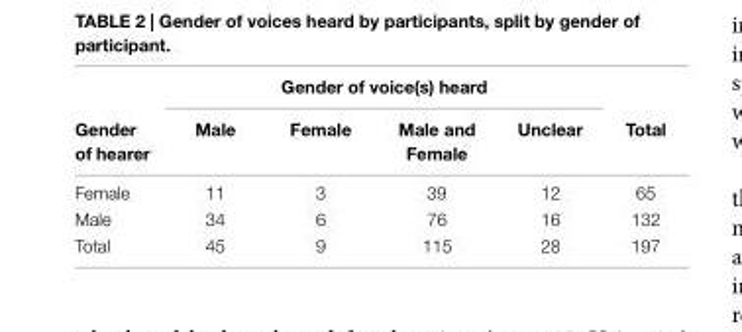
<table><thead><tr><td rowspan="2">gender of hearer</td><td colspan="4">gender of voice(s) heard</td><td rowspan="2">Total</td></tr><tr><td>Male</td><td>Female</td><td>Male and Female</td><td>Unclear</td></tr></thead><tbody><tr><td>Female</td><td>11</td><td>3</td><td>39</td><td>12</td><td>65</td></tr><tr><td>Male</td><td>34</td><td>6</td><td>76</td><td>16</td><td>132</td></tr><tr><td>Total</td><td>45</td><td>9</td><td>115</td><td>28</td><td>197</td></tr></tbody></table>